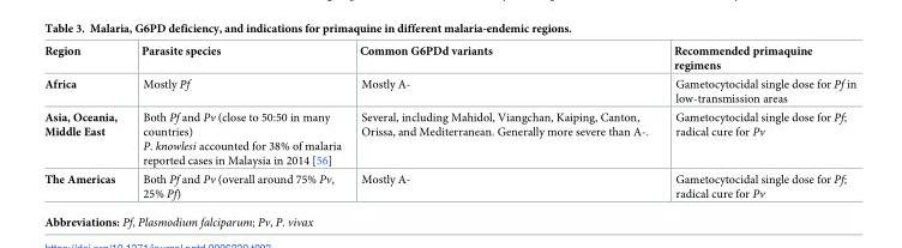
<table><thead><tr><td>Region</td><td>Parasite species</td><td>Common G6PDd variants</td><td>Recommended primaquine regimens</td></tr></thead><tbody><tr><td>Africa</td><td>Mostly Pf</td><td>Mostly A-</td><td>Gametocytocidal single dose for Pf in low-transmission areas</td></tr><tr><td>Asia, Oceania, Middle East</td><td>Both Pf and Pv (close to 50:50 in many countries) P. knowlesi accounted for 38% of malaria reported cases in Malaysia in 2014 [56]</td><td>Several, including Mahidol, Viangchan, Kaiping, Canton, Orissa, and Mediterranean. Generally more severe than A-.</td><td>Gametocytocidal single dose for Pf; radical cure for Pv</td></tr><tr><td>The Americas</td><td>Both Pf and Pv (overall around 75% Pv, 25% Pf)</td><td>Mostly A-</td><td>Gametocytocidal single dose for Pf; radical cure for Pv</td></tr></tbody></table>